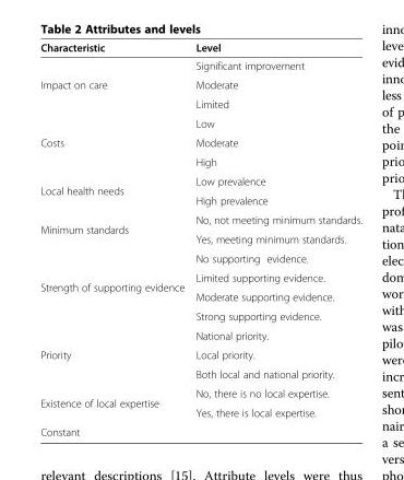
<table><thead><tr><td>Characteristic</td><td>Level</td></tr></thead><tbody><tr><td rowspan="3">Impact on care</td><td>Significant improvement</td></tr><tr><td>Moderate</td></tr><tr><td>Limited</td></tr><tr><td rowspan="3">Costs</td><td>Low</td></tr><tr><td>Moderate</td></tr><tr><td>High</td></tr><tr><td rowspan="2">Local health needs</td><td>Low prevalence</td></tr><tr><td>High prevalence</td></tr><tr><td rowspan="2">Minimum standards</td><td>No, not meeting minimum standards.</td></tr><tr><td>Yes, meeting minimum standards.</td></tr><tr><td rowspan="4">Strength of supporting evidence</td><td>No supporting evidence.</td></tr><tr><td>Limited supporting evidence.</td></tr><tr><td>Moderate supporting evidence.</td></tr><tr><td>Strong supporting evidence.</td></tr><tr><td rowspan="3">Priority</td><td>National priority.</td></tr><tr><td>Local priority.</td></tr><tr><td>Both local and national priority.</td></tr><tr><td rowspan="2">Existence of local expertise</td><td>No, there is no local expertise.</td></tr><tr><td>Yes, there is local expertise.</td></tr><tr><td>Constant</td><td></td></tr></tbody></table>